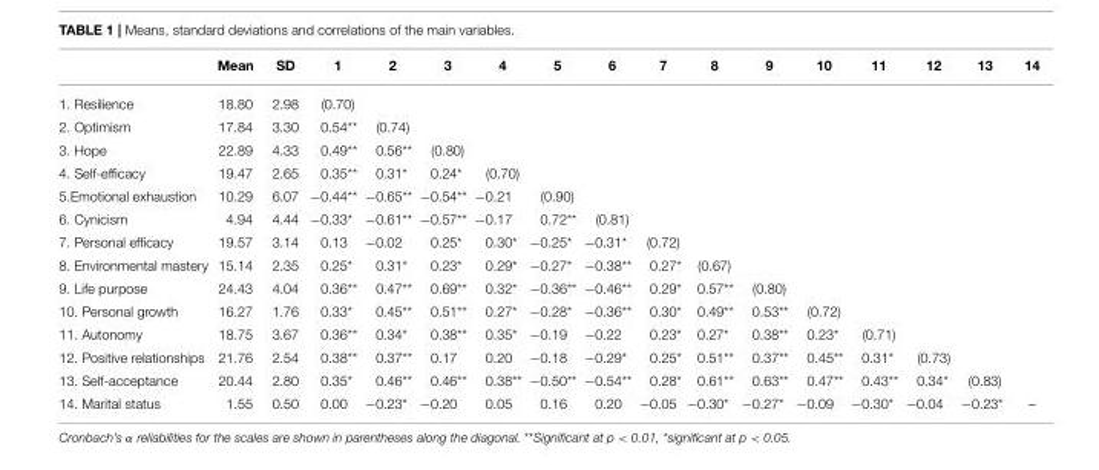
<table><thead><tr><td></td><td>Mean</td><td>SD</td><td>1</td><td>2</td><td>3</td><td>4</td><td>5</td><td>6</td><td>7</td><td>8</td><td>9</td><td>10</td><td>11</td><td>12</td><td>13</td><td>14</td></tr></thead><tbody><tr><td>1. Resilience</td><td>18.80</td><td>2.98</td><td>(0.70)</td><td></td><td></td><td></td><td></td><td></td><td></td><td></td><td></td><td></td><td></td><td></td><td></td><td></td></tr><tr><td>2. Optimism</td><td>17.84</td><td>3.30</td><td>0.54**</td><td>(0.74)</td><td></td><td></td><td></td><td></td><td></td><td></td><td></td><td></td><td></td><td></td><td></td><td></td></tr><tr><td>3. Hope</td><td>22.89</td><td>4.33</td><td>0.49**</td><td>0.56**</td><td>(0.80)</td><td></td><td></td><td></td><td></td><td></td><td></td><td></td><td></td><td></td><td></td><td></td></tr><tr><td>4. Self-efficacy</td><td>19.47</td><td>2.65</td><td>0.35**</td><td>0.31*</td><td>0.24*</td><td>(0.70)</td><td></td><td></td><td></td><td></td><td></td><td></td><td></td><td></td><td></td><td></td></tr><tr><td>5.Emotional exhaustion</td><td>10.29</td><td>6.07</td><td>−0.44**</td><td>−0.65**</td><td>−0.54**</td><td>−0.21</td><td>(0.90)</td><td></td><td></td><td></td><td></td><td></td><td></td><td></td><td></td><td></td></tr><tr><td>6. Cynicism</td><td>4.94</td><td>4.44</td><td>−0.33*</td><td>−0.61**</td><td>−0.57**</td><td>−0.17</td><td>0.72**</td><td>(0.81)</td><td></td><td></td><td></td><td></td><td></td><td></td><td></td><td></td></tr><tr><td>7. Personal efficacy</td><td>19.57</td><td>3.14</td><td>0.13</td><td>−0.02</td><td>0.25*</td><td>0.30*</td><td>−0.25*</td><td>−0.31*</td><td>(0.72)</td><td></td><td></td><td></td><td></td><td></td><td></td><td></td></tr><tr><td>8. Environmental mastery</td><td>15.14</td><td>2.35</td><td>0.25*</td><td>0.31*</td><td>0.23*</td><td>0.29*</td><td>−0.27*</td><td>−0.38**</td><td>0.27*</td><td>(0.67)</td><td></td><td></td><td></td><td></td><td></td><td></td></tr><tr><td>9. Life purpose</td><td>24.43</td><td>4.04</td><td>0.36**</td><td>0.47**</td><td>0.69**</td><td>0.32*</td><td>−0.36**</td><td>−0.46**</td><td>0.29*</td><td>0.57**</td><td>(0.80)</td><td></td><td></td><td></td><td></td><td></td></tr><tr><td>10. Personal growth</td><td>16.27</td><td>1.76</td><td>0.33*</td><td>0.45**</td><td>0.51**</td><td>0.27*</td><td>−0.28*</td><td>−0.36**</td><td>0.30*</td><td>0.49**</td><td>0.53**</td><td>(0.72)</td><td></td><td></td><td></td><td></td></tr><tr><td>11. Autonomy</td><td>18.75</td><td>3.67</td><td>0.36**</td><td>0.34*</td><td>0.38**</td><td>0.35*</td><td>−0.19</td><td>−0.22</td><td>0.23*</td><td>0.27*</td><td>0.38**</td><td>0.23*</td><td>(0.71)</td><td></td><td></td><td></td></tr><tr><td>12. Positive relationships</td><td>21.76</td><td>2.54</td><td>0.38**</td><td>0.37**</td><td>0.17</td><td>0.20</td><td>−0.18</td><td>−0.29*</td><td>0.25*</td><td>0.51**</td><td>0.37**</td><td>0.45**</td><td>0.31*</td><td>(0.73)</td><td></td><td></td></tr><tr><td>13. Self-acceptance</td><td>20.44</td><td>2.80</td><td>0.35*</td><td>0.46**</td><td>0.46**</td><td>0.38**</td><td>−0.50**</td><td>−0.54**</td><td>0.28*</td><td>0.61**</td><td>0.63**</td><td>0.47**</td><td>0.43**</td><td>0.34*</td><td>(0.83)</td><td></td></tr><tr><td>14. Marital status</td><td>1.55</td><td>0.50</td><td>0.00</td><td>−0.23*</td><td>−0.20</td><td>0.05</td><td>0.16</td><td>0.20</td><td>−0.05</td><td>−0.30*</td><td>−0.27*</td><td>−0.09</td><td>−0.30*</td><td>−0.04</td><td>−0.23*</td><td>–</td></tr></tbody></table>